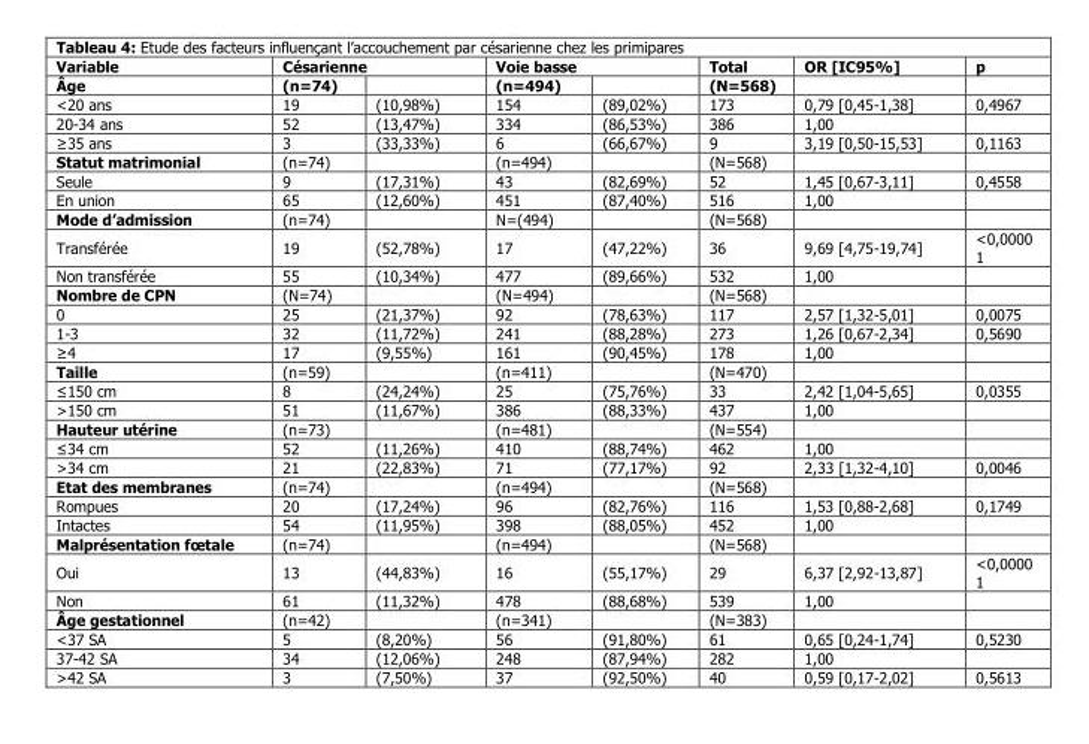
<table><thead><tr><td rowspan="2">Variable Âge</td><td colspan="2">Césarienne</td><td colspan="2">Voie basse</td><td rowspan="2">Total (N=568)</td><td rowspan="2">OR [IC95%]</td><td rowspan="2">p</td></tr><tr><td>(n=74)</td><td></td><td>(n=494)</td><td></td></tr></thead><tbody><tr><td>&lt;20 ans</td><td>19</td><td>(10,98%)</td><td>154</td><td>(89,02%)</td><td>173</td><td>0,79 [0,45-1,38]</td><td>0,4967</td></tr><tr><td>20-34 ans</td><td>52</td><td>(13,47%)</td><td>334</td><td>(86,53%)</td><td>386</td><td>1,00</td><td></td></tr><tr><td>≥35 ans</td><td>3</td><td>(33,33%)</td><td>6</td><td>(66,67%)</td><td>9</td><td>3,19 [0,50-15,53]</td><td>0,1163</td></tr><tr><td>Statut matrimonial</td><td>(n=74)</td><td></td><td>(n=494)</td><td></td><td>(N=568)</td><td></td><td></td></tr><tr><td>Seule</td><td>9</td><td>(17,31%)</td><td>43</td><td>(82,69%)</td><td>52</td><td>1,45 [0,67-3,11]</td><td>0,4558</td></tr><tr><td>En union</td><td>65</td><td>(12,60%)</td><td>451</td><td>(87,40%)</td><td>516</td><td>1,00</td><td></td></tr><tr><td>Mode d’admission</td><td>(n=74)</td><td></td><td>N=(494)</td><td></td><td>(N=568)</td><td></td><td></td></tr><tr><td>Transférée</td><td>19</td><td>(52,78%)</td><td>17</td><td>(47,22%)</td><td>36</td><td>9,69 [4,75-19,74]</td><td>&lt;0,0000 1</td></tr><tr><td>Non transférée</td><td>55</td><td>(10,34%)</td><td>477</td><td>(89,66%)</td><td>532</td><td>1,00</td><td></td></tr><tr><td>Nombre de CPN</td><td>(N=74)</td><td></td><td>(N=494)</td><td></td><td>(N=568)</td><td></td><td></td></tr><tr><td>0</td><td>25</td><td>(21,37%)</td><td>92</td><td>(78,63%)</td><td>117</td><td>2,57 [1,32-5,01]</td><td>0,0075</td></tr><tr><td>1-3</td><td>32</td><td>(11,72%)</td><td>241</td><td>(88,28%)</td><td>273</td><td>1,26 [0,67-2,34]</td><td>0,5690</td></tr><tr><td>≥4</td><td>17</td><td>(9,55%)</td><td>161</td><td>(90,45%)</td><td>178</td><td>1,00</td><td></td></tr><tr><td>Taille</td><td>(n=59)</td><td></td><td>(n=411)</td><td></td><td>(N=470)</td><td></td><td></td></tr><tr><td>≤150 cm</td><td>8</td><td>(24,24%)</td><td>25</td><td>(75,76%)</td><td>33</td><td>2,42 [1,04-5,65]</td><td>0,0355</td></tr><tr><td>&gt;150 cm</td><td>51</td><td>(11,67%)</td><td>386</td><td>(88,33%)</td><td>437</td><td>1,00</td><td></td></tr><tr><td>Hauteur utérine</td><td>(n=73)</td><td></td><td>(n=481)</td><td></td><td>(N=554)</td><td></td><td></td></tr><tr><td>≤34 cm</td><td>52</td><td>(11,26%)</td><td>410</td><td>(88,74%)</td><td>462</td><td>1,00</td><td></td></tr><tr><td>&gt;34 cm</td><td>21</td><td>(22,83%)</td><td>71</td><td>(77,17%)</td><td>92</td><td>2,33 [1,32-4,10]</td><td>0,0046</td></tr><tr><td>Etat des membranes</td><td>(n=74)</td><td></td><td>(n=494)</td><td></td><td>(N=568)</td><td></td><td></td></tr><tr><td>Rompues</td><td>20</td><td>(17,24%)</td><td>96</td><td>(82,76%)</td><td>116</td><td>1,53 [0,88-2,68]</td><td>0,1749</td></tr><tr><td>Intactes</td><td>54</td><td>(11,95%)</td><td>398</td><td>(88,05%)</td><td>452</td><td>1,00</td><td></td></tr><tr><td>Malprésentation fœtale</td><td>(n=74)</td><td></td><td>(n=494)</td><td></td><td>(N=568)</td><td></td><td></td></tr><tr><td>Oui</td><td>13</td><td>(44,83%)</td><td>16</td><td>(55,17%)</td><td>29</td><td>6,37 [2,92-13,87]</td><td>&lt;0,0000 1</td></tr><tr><td>Non</td><td>61</td><td>(11,32%)</td><td>478</td><td>(88,68%)</td><td>539</td><td>1,00</td><td></td></tr><tr><td>Âge gestationnel</td><td>(n=42)</td><td></td><td>(n=341)</td><td></td><td>(N=383)</td><td></td><td></td></tr><tr><td>&lt;37 SA</td><td>5</td><td>(8,20%)</td><td>56</td><td>(91,80%)</td><td>61</td><td>0,65 [0,24-1,74]</td><td>0,5230</td></tr><tr><td>37-42 SA</td><td>34</td><td>(12,06%)</td><td>248</td><td>(87,94%)</td><td>282</td><td>1,00</td><td></td></tr><tr><td>&gt;42 SA</td><td>3</td><td>(7,50%)</td><td>37</td><td>(92,50%)</td><td>40</td><td>0,59 [0,17-2,02]</td><td>0,5613</td></tr></tbody></table>